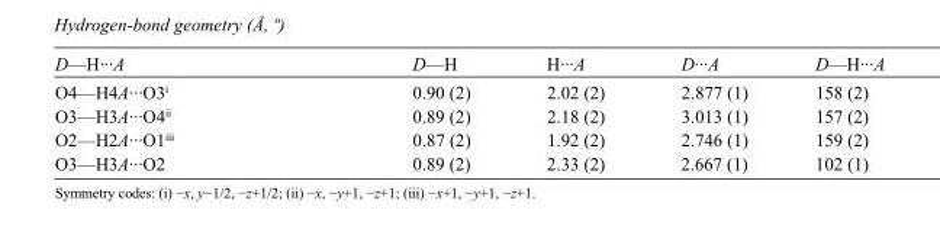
<table><tbody><tr><td>D—H···A</td><td>D—H</td><td>H···A</td><td>D···A</td><td>D—H···A</td></tr><tr><td>O4—H4A···O3<sup>i</sup></td><td>0.90 (2)</td><td>2.02 (2)</td><td>2.877 (1)</td><td>158 (2)</td></tr><tr><td>O3—H3A···O4<sup>ii</sup></td><td>0.89 (2)</td><td>2.18 (2)</td><td>3.013 (1)</td><td>157 (2)</td></tr><tr><td>O2—H2A···O1<sup>iii</sup></td><td>0.87 (2)</td><td>1.92 (2)</td><td>2.746 (1)</td><td>159 (2)</td></tr><tr><td>O3—H3A···O2</td><td>0.89 (2)</td><td>2.33 (2)</td><td>2.667 (1)</td><td>102 (1)</td></tr></tbody></table>